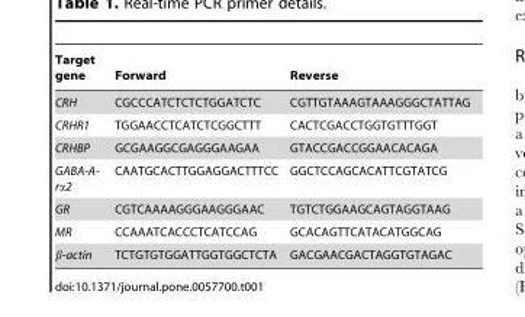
<table><thead><tr><td>Target gene</td><td>Forward</td><td>Reverse</td></tr></thead><tbody><tr><td>CRH</td><td>CGCCCATCTCTCTGGATCTC</td><td>CGTTGTAAAGTAAAGGGCTATTAG</td></tr><tr><td>CRHR1</td><td>TGGAACCTCATCTCGGCTTT</td><td>CACTCGACCTGGTGTTTGGT</td></tr><tr><td>CRHBP</td><td>GCGAAGGCGAGGGAAGAA</td><td>GTACCGACCGGAACACAGA</td></tr><tr><td>GABA-A- rα2</td><td>CAATGCACTTGGAGGACTTTCC</td><td>GGCTCCAGCACATTCGTATCG</td></tr><tr><td>GR</td><td>CGTCAAAAGGGAAGGGAAC</td><td>TGTCTGGAAGCAGTAGGTAAG</td></tr><tr><td>MR</td><td>CCAAATCACCCTCATCCAG</td><td>GCACAGTTCATACATGGCAG</td></tr><tr><td>β-actin</td><td>TCTGTGTGGATTGGTGGCTCTA</td><td>GACGAACGACTAGGTGTAGAC</td></tr></tbody></table>